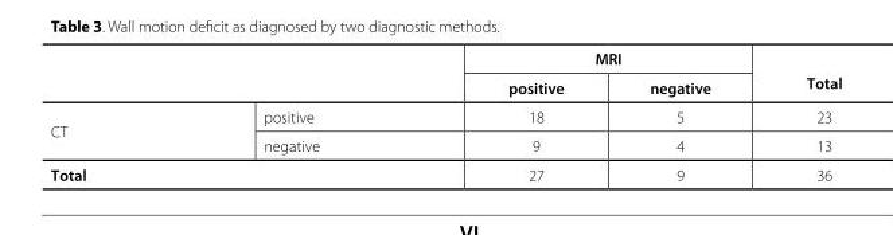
<table><thead><tr><td rowspan="2"></td><td rowspan="2"></td><td colspan="2">MRI</td><td rowspan="2">Total</td></tr><tr><td>positive</td><td>negative</td></tr></thead><tbody><tr><td rowspan="2">CT</td><td>positive</td><td>18</td><td>5</td><td>23</td></tr><tr><td>negative</td><td>9</td><td>4</td><td>13</td></tr><tr><td colspan="2">Total</td><td>27</td><td>9</td><td>36</td></tr></tbody></table>